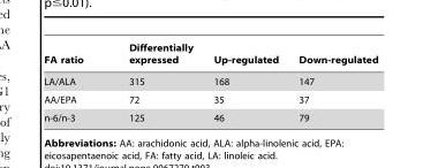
<table><thead><tr><td>FA ratio</td><td>Differentially expressed</td><td>Up-regulated</td><td>Down-regulated</td></tr></thead><tbody><tr><td>LA/ALA</td><td>315</td><td>168</td><td>147</td></tr><tr><td>AA/EPA</td><td>72</td><td>35</td><td>37</td></tr><tr><td>n-6/n-3</td><td>125</td><td>46</td><td>79</td></tr></tbody></table>